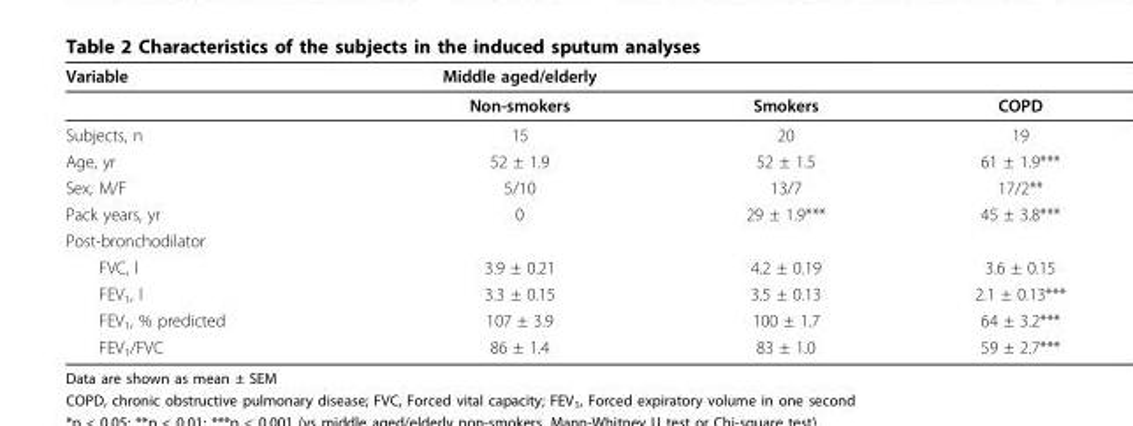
<table><thead><tr><td>Variable</td><td>Middle aged/elderly</td><td></td><td></td></tr></thead><tbody><tr><td></td><td>Non-smokers</td><td>Smokers</td><td>COPD</td></tr><tr><td>Subjects, n</td><td>15</td><td>20</td><td>19</td></tr><tr><td>Age, yr</td><td>52 ± 1.9</td><td>52 ± 1.5</td><td>61 ± 1.9***</td></tr><tr><td>Sex, M/F</td><td>5/10</td><td>13/7</td><td>17/2**</td></tr><tr><td>Pack years, yr</td><td>0</td><td>29 ± 1.9***</td><td>45 ± 3.8***</td></tr><tr><td colspan="4">Post-bronchodilator</td></tr><tr><td>FVC, l</td><td>3.9 ± 0.21</td><td>4.2 ± 0.19</td><td>3.6 ± 0.15</td></tr><tr><td>FEV<sub>1</sub>, l</td><td>3.3 ± 0.15</td><td>3.5 ± 0.13</td><td>2.1 ± 0.13***</td></tr><tr><td>FEV<sub>1</sub>, % predicted</td><td>107 ± 3.9</td><td>100 ± 1.7</td><td>64 ± 3.2***</td></tr><tr><td>FEV<sub>1</sub>/FVC</td><td>86 ± 1.4</td><td>83 ± 1.0</td><td>59 ± 2.7***</td></tr></tbody></table>